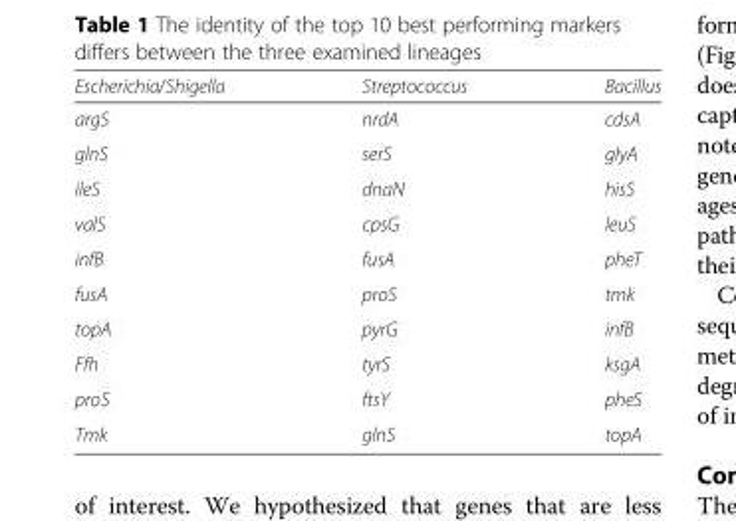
<table><thead><tr><td>Escherichia/Shigella</td><td>Streptococcus</td><td>Bacillus</td></tr></thead><tbody><tr><td>argS</td><td>nrdA</td><td>cdsA</td></tr><tr><td>glnS</td><td>serS</td><td>glyA</td></tr><tr><td>ileS</td><td>dnaN</td><td>hisS</td></tr><tr><td>valS</td><td>cpsG</td><td>leuS</td></tr><tr><td>infB</td><td>fusA</td><td>pheT</td></tr><tr><td>fusA</td><td>proS</td><td>tmk</td></tr><tr><td>topA</td><td>pyrG</td><td>infB</td></tr><tr><td>Ffh</td><td>tyrS</td><td>ksgA</td></tr><tr><td>proS</td><td>ftsY</td><td>pheS</td></tr><tr><td>Tmk</td><td>glnS</td><td>topA</td></tr></tbody></table>